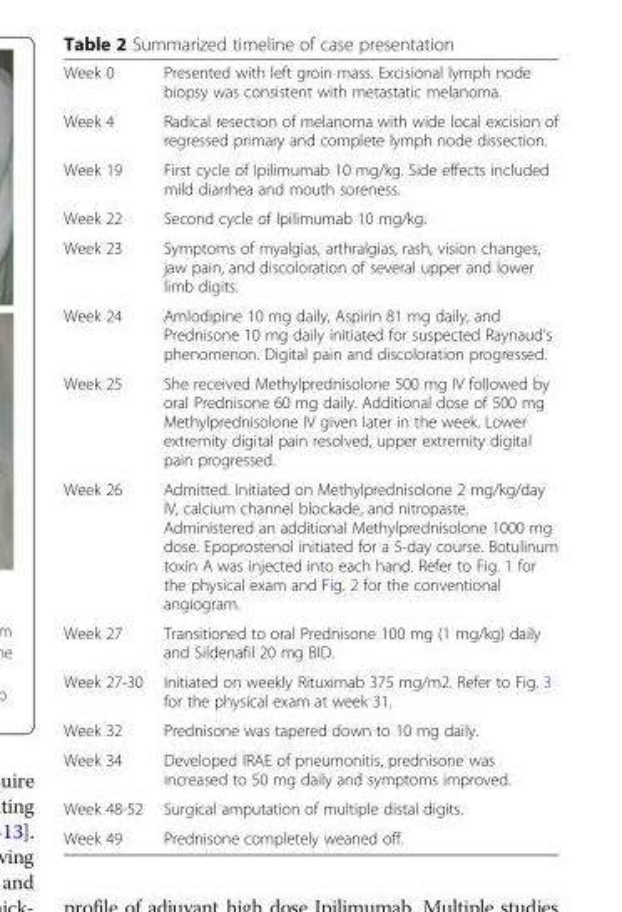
<table><tbody><tr><td>Week 0</td><td>Presented with left groin mass. Excisional lymph node biopsy was consistent with metastatic melanoma.</td></tr><tr><td>Week 4</td><td>Radical resection of melanoma with wide local excision of regressed primary and complete lymph node dissection.</td></tr><tr><td>Week 19</td><td>First cycle of Ipilimumab 10 mg/kg. Side effects included mild diarrhea and mouth soreness.</td></tr><tr><td>Week 22</td><td>Second cycle of Ipilimumab 10 mg/kg.</td></tr><tr><td>Week 23</td><td>Symptoms of myalgias, arthralgias, rash, vision changes, jaw pain, and discoloration of several upper and lower limb digits.</td></tr><tr><td>Week 24</td><td>Amlodipine 10 mg daily, Aspirin 81 mg daily, and Prednisone 10 mg daily initiated for suspected Raynaud’s phenomenon. Digital pain and discoloration progressed.</td></tr><tr><td>Week 25</td><td>She received Methylprednisolone 500 mg IV followed by oral Prednisone 60 mg daily. Additional dose of 500 mg Methylprednisolone IV given later in the week. Lower extremity digital pain resolved, upper extremity digital pain progressed.</td></tr><tr><td>Week 26</td><td>Admitted. Initiated on Methylprednisolone 2 mg/kg/day IV, calcium channel blockade, and nitropaste. Administered an additional Methylprednisolone 1000 mg dose. Epoprostenol initiated for a 5-day course. Botulinum toxin A was injected into each hand. Refer to Fig. 1 for the physical exam and Fig. 2 for the conventional angiogram.</td></tr><tr><td>Week 27</td><td>Transitioned to oral Prednisone 100 mg (1 mg/kg) daily and Sildenafil 20 mg BID.</td></tr><tr><td>Week 27-30</td><td>Initiated on weekly Rituximab 375 mg/m2. Refer to Fig. 3 for the physical exam at week 31.</td></tr><tr><td>Week 32</td><td>Prednisone was tapered down to 10 mg daily.</td></tr><tr><td>Week 34</td><td>Developed IRAE of pneumonitis, prednisone was increased to 50 mg daily and symptoms improved.</td></tr><tr><td>Week 48-52</td><td>Surgical amputation of multiple distal digits.</td></tr><tr><td>Week 49</td><td>Prednisone completely weaned off.</td></tr></tbody></table>